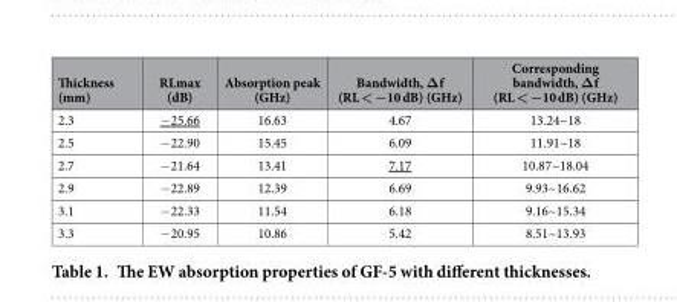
<table><thead><tr><td>Thickness (mm)</td><td>RLmax (dB)</td><td>Absorption peak (GHz)</td><td>Bandwidth, Δf (RL &lt; −10 dB) (GHz)</td><td>Corresponding bandwidth, Δf (RL &lt; −10 dB) (GHz)</td></tr></thead><tbody><tr><td>2.3</td><td>−25.66</td><td>16.63</td><td>4.67</td><td>13.24~18</td></tr><tr><td>2.5</td><td>− 22.90</td><td>15.45</td><td>6.09</td><td>11.91~18</td></tr><tr><td>2.7</td><td>− 21.64</td><td>13.41</td><td>7.17</td><td>10.87~18.04</td></tr><tr><td>2.9</td><td>− 22.89</td><td>12.39</td><td>6.69</td><td>9.93~16.62</td></tr><tr><td>3.1</td><td>− 22.33</td><td>11.54</td><td>6.18</td><td>9.16~15.34</td></tr><tr><td>3.3</td><td>− 20.95</td><td>10.86</td><td>5.42</td><td>8.51~13.93</td></tr></tbody></table>